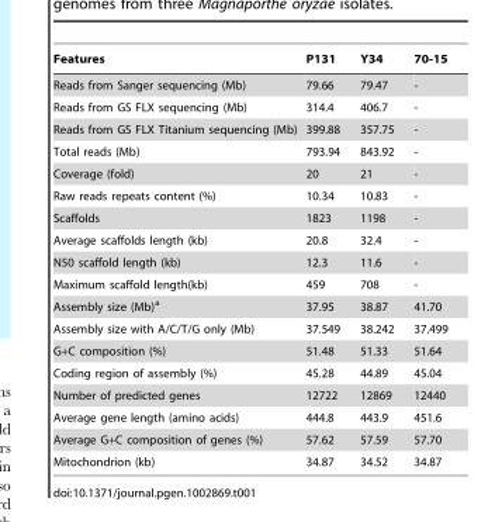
<table><thead><tr><td>Features</td><td>P131</td><td>Y34</td><td>70-15</td></tr></thead><tbody><tr><td>Reads from Sanger sequencing (Mb)</td><td>79.66</td><td>79.47</td><td>-</td></tr><tr><td>Reads from GS FLX sequencing (Mb)</td><td>314.4</td><td>406.7</td><td>-</td></tr><tr><td>Reads from GS FLX Titanium sequencing (Mb)</td><td>399.88</td><td>357.75</td><td>-</td></tr><tr><td>Total reads (Mb)</td><td>793.94</td><td>843.92</td><td>-</td></tr><tr><td>Coverage (fold)</td><td>20</td><td>21</td><td>-</td></tr><tr><td>Raw reads repeats content (%)</td><td>10.34</td><td>10.83</td><td>-</td></tr><tr><td>Scaffolds</td><td>1823</td><td>1198</td><td>-</td></tr><tr><td>Average scaffolds length (kb)</td><td>20.8</td><td>32.4</td><td>-</td></tr><tr><td>N50 scaffold length (kb)</td><td>12.3</td><td>11.6</td><td>-</td></tr><tr><td>Maximum scaffold length(kb)</td><td>459</td><td>708</td><td>-</td></tr><tr><td>Assembly size (Mb)<sup>a</sup></td><td>37.95</td><td>38.87</td><td>41.70</td></tr><tr><td>Assembly size with A/C/T/G only (Mb)</td><td>37.549</td><td>38.242</td><td>37.499</td></tr><tr><td>G+C composition (%)</td><td>51.48</td><td>51.33</td><td>51.64</td></tr><tr><td>Coding region of assembly (%)</td><td>45.28</td><td>44.89</td><td>45.04</td></tr><tr><td>Number of predicted genes</td><td>12722</td><td>12869</td><td>12440</td></tr><tr><td>Average gene length (amino acids)</td><td>444.8</td><td>443.9</td><td>451.6</td></tr><tr><td>Average G+C composition of genes (%)</td><td>57.62</td><td>57.59</td><td>57.70</td></tr><tr><td>Mitochondrion (kb)</td><td>34.87</td><td>34.52</td><td>34.87</td></tr></tbody></table>